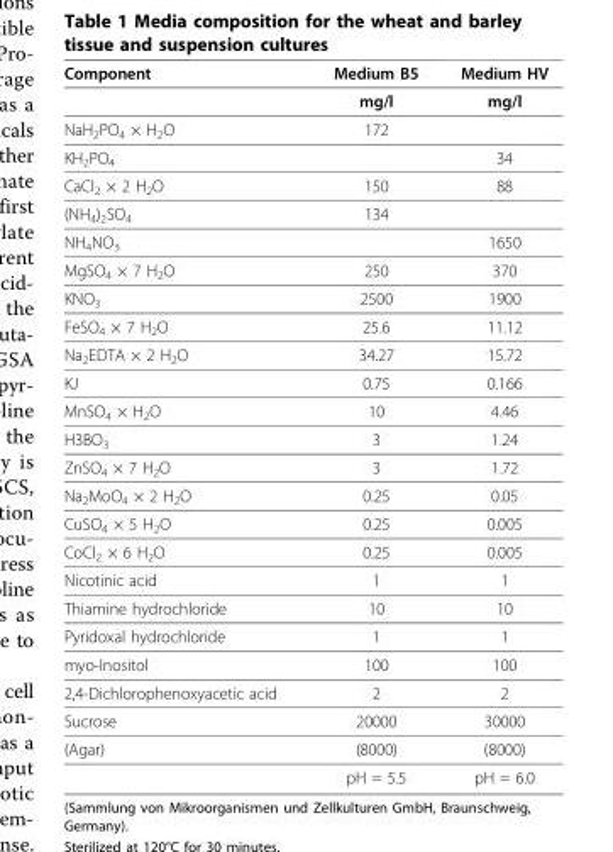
<table><thead><tr><td>Component</td><td>Medium B5</td><td>Medium HV</td></tr></thead><tbody><tr><td></td><td>mg/l</td><td>mg/l</td></tr><tr><td>NaH<sub>2</sub>PO<sub>4</sub> × H<sub>2</sub>O</td><td>172</td><td></td></tr><tr><td>KH<sub>2</sub>PO<sub>4</sub></td><td></td><td>34</td></tr><tr><td>CaCl<sub>2</sub> × 2 H<sub>2</sub>O</td><td>150</td><td>88</td></tr><tr><td>(NH<sub>4</sub>)<sub>2</sub>SO<sub>4</sub></td><td>134</td><td></td></tr><tr><td>NH<sub>4</sub>NO<sub>3</sub></td><td></td><td>1650</td></tr><tr><td>MgSO<sub>4</sub> × 7 H<sub>2</sub>O</td><td>250</td><td>370</td></tr><tr><td>KNO<sub>3</sub></td><td>2500</td><td>1900</td></tr><tr><td>FeSO<sub>4</sub> × 7 H<sub>2</sub>O</td><td>25.6</td><td>11.12</td></tr><tr><td>Na<sub>2</sub>EDTA × 2 H<sub>2</sub>O</td><td>34.27</td><td>15.72</td></tr><tr><td>KJ</td><td>0.75</td><td>0.166</td></tr><tr><td>MnSO<sub>4</sub> × H<sub>2</sub>O</td><td>10</td><td>4.46</td></tr><tr><td>H3BO<sub>3</sub></td><td>3</td><td>1.24</td></tr><tr><td>ZnSO<sub>4</sub> × 7 H<sub>2</sub>O</td><td>3</td><td>1.72</td></tr><tr><td>Na<sub>2</sub>MoO<sub>4</sub> × 2 H<sub>2</sub>O</td><td>0.25</td><td>0.05</td></tr><tr><td>CuSO<sub>4</sub> × 5 H<sub>2</sub>O</td><td>0.25</td><td>0.005</td></tr><tr><td>CoCl<sub>2</sub> × 6 H<sub>2</sub>O</td><td>0.25</td><td>0.005</td></tr><tr><td>Nicotinic acid</td><td>1</td><td>1</td></tr><tr><td>Thiamine hydrochloride</td><td>10</td><td>10</td></tr><tr><td>Pyridoxal hydrochloride</td><td>1</td><td>1</td></tr><tr><td>myo-Inositol</td><td>100</td><td>100</td></tr><tr><td>2,4-Dichlorophenoxyacetic acid</td><td>2</td><td>2</td></tr><tr><td>Sucrose</td><td>20000</td><td>30000</td></tr><tr><td rowspan="2">(Agar)</td><td>(8000)</td><td>(8000)</td></tr><tr><td>pH = 5.5</td><td>pH = 6.0</td></tr></tbody></table>